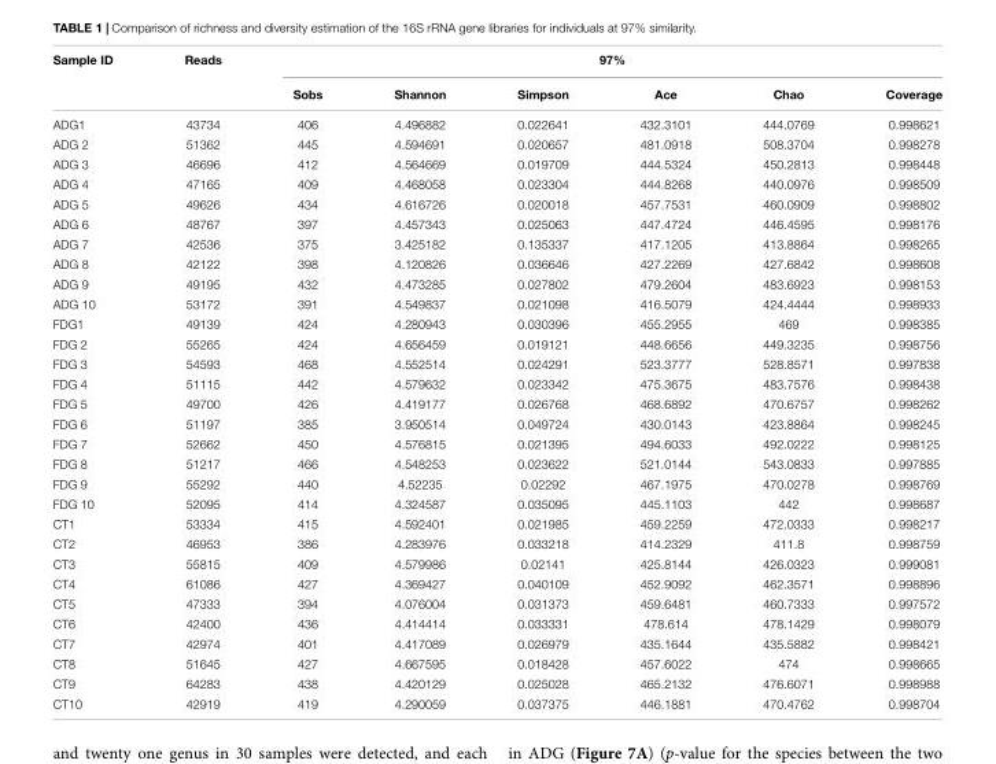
<table><thead><tr><td rowspan="2">Sample ID</td><td rowspan="2">Reads</td><td colspan="6">97%</td></tr><tr><td>Sobs</td><td>Shannon</td><td>Simpson</td><td>Ace</td><td>Chao</td><td>Coverage</td></tr></thead><tbody><tr><td>ADG1</td><td>43734</td><td>406</td><td>4.496882</td><td>0.022641</td><td>432.3101</td><td>444.0769</td><td>0.998621</td></tr><tr><td>ADG 2</td><td>51362</td><td>445</td><td>4.594691</td><td>0.020657</td><td>481.0918</td><td>508.3704</td><td>0.998278</td></tr><tr><td>ADG 3</td><td>46696</td><td>412</td><td>4.564669</td><td>0.019709</td><td>444.5324</td><td>450.2813</td><td>0.998448</td></tr><tr><td>ADG 4</td><td>47165</td><td>409</td><td>4.468058</td><td>0.023304</td><td>444.8268</td><td>440.0976</td><td>0.998509</td></tr><tr><td>ADG 5</td><td>49626</td><td>434</td><td>4.616726</td><td>0.020018</td><td>457.7531</td><td>460.0909</td><td>0.998802</td></tr><tr><td>ADG 6</td><td>48767</td><td>397</td><td>4.457343</td><td>0.025063</td><td>447.4724</td><td>446.4595</td><td>0.998176</td></tr><tr><td>ADG 7</td><td>42536</td><td>375</td><td>3.425182</td><td>0.135337</td><td>417.1205</td><td>413.8864</td><td>0.998265</td></tr><tr><td>ADG 8</td><td>42122</td><td>398</td><td>4.120826</td><td>0.036646</td><td>427.2269</td><td>427.6842</td><td>0.998608</td></tr><tr><td>ADG 9</td><td>49195</td><td>432</td><td>4.473285</td><td>0.027802</td><td>479.2604</td><td>483.6923</td><td>0.998153</td></tr><tr><td>ADG 10</td><td>53172</td><td>391</td><td>4.549837</td><td>0.021098</td><td>416.5079</td><td>424.4444</td><td>0.998933</td></tr><tr><td>FDG1</td><td>49139</td><td>424</td><td>4.280943</td><td>0.030396</td><td>455.2955</td><td>469</td><td>0.998385</td></tr><tr><td>FDG 2</td><td>55265</td><td>424</td><td>4.656459</td><td>0.019121</td><td>448.6656</td><td>449.3235</td><td>0.998756</td></tr><tr><td>FDG 3</td><td>54593</td><td>468</td><td>4.552514</td><td>0.024291</td><td>523.3777</td><td>528.8571</td><td>0.997838</td></tr><tr><td>FDG 4</td><td>51115</td><td>442</td><td>4.579632</td><td>0.023342</td><td>475.3675</td><td>483.7576</td><td>0.998438</td></tr><tr><td>FDG 5</td><td>49700</td><td>426</td><td>4.419177</td><td>0.026768</td><td>468.6892</td><td>470.6757</td><td>0.998262</td></tr><tr><td>FDG 6</td><td>51197</td><td>385</td><td>3.950514</td><td>0.049724</td><td>430.0143</td><td>423.8864</td><td>0.998245</td></tr><tr><td>FDG 7</td><td>52662</td><td>450</td><td>4.576815</td><td>0.021395</td><td>494.6033</td><td>492.0222</td><td>0.998125</td></tr><tr><td>FDG 8</td><td>51217</td><td>466</td><td>4.548253</td><td>0.023622</td><td>521.0144</td><td>543.0833</td><td>0.997885</td></tr><tr><td>FDG 9</td><td>55292</td><td>440</td><td>4.52235</td><td>0.02292</td><td>467.1975</td><td>470.0278</td><td>0.998769</td></tr><tr><td>FDG 10</td><td>52095</td><td>414</td><td>4.324587</td><td>0.035095</td><td>445.1103</td><td>442</td><td>0.998687</td></tr><tr><td>CT1</td><td>53334</td><td>415</td><td>4.592401</td><td>0.021985</td><td>459.2259</td><td>472.0333</td><td>0.998217</td></tr><tr><td>CT2</td><td>46953</td><td>386</td><td>4.283976</td><td>0.033218</td><td>414.2329</td><td>411.8</td><td>0.998759</td></tr><tr><td>CT3</td><td>55815</td><td>409</td><td>4.579986</td><td>0.02141</td><td>425.8144</td><td>426.0323</td><td>0.999081</td></tr><tr><td>CT4</td><td>61086</td><td>427</td><td>4.369427</td><td>0.040109</td><td>452.9092</td><td>462.3571</td><td>0.998896</td></tr><tr><td>CT5</td><td>47333</td><td>394</td><td>4.076004</td><td>0.031373</td><td>459.6481</td><td>460.7333</td><td>0.997572</td></tr><tr><td>CT6</td><td>42400</td><td>436</td><td>4.414414</td><td>0.033331</td><td>478.614</td><td>478.1429</td><td>0.998079</td></tr><tr><td>CT7</td><td>42974</td><td>401</td><td>4.417089</td><td>0.026979</td><td>435.1644</td><td>435.5882</td><td>0.998421</td></tr><tr><td>CT8</td><td>51645</td><td>427</td><td>4.667595</td><td>0.018428</td><td>457.6022</td><td>474</td><td>0.998665</td></tr><tr><td>CT9</td><td>64283</td><td>438</td><td>4.420129</td><td>0.025028</td><td>465.2132</td><td>476.6071</td><td>0.998988</td></tr><tr><td>CT10</td><td>42919</td><td>419</td><td>4.290059</td><td>0.037375</td><td>446.1881</td><td>470.4762</td><td>0.998704</td></tr></tbody></table>